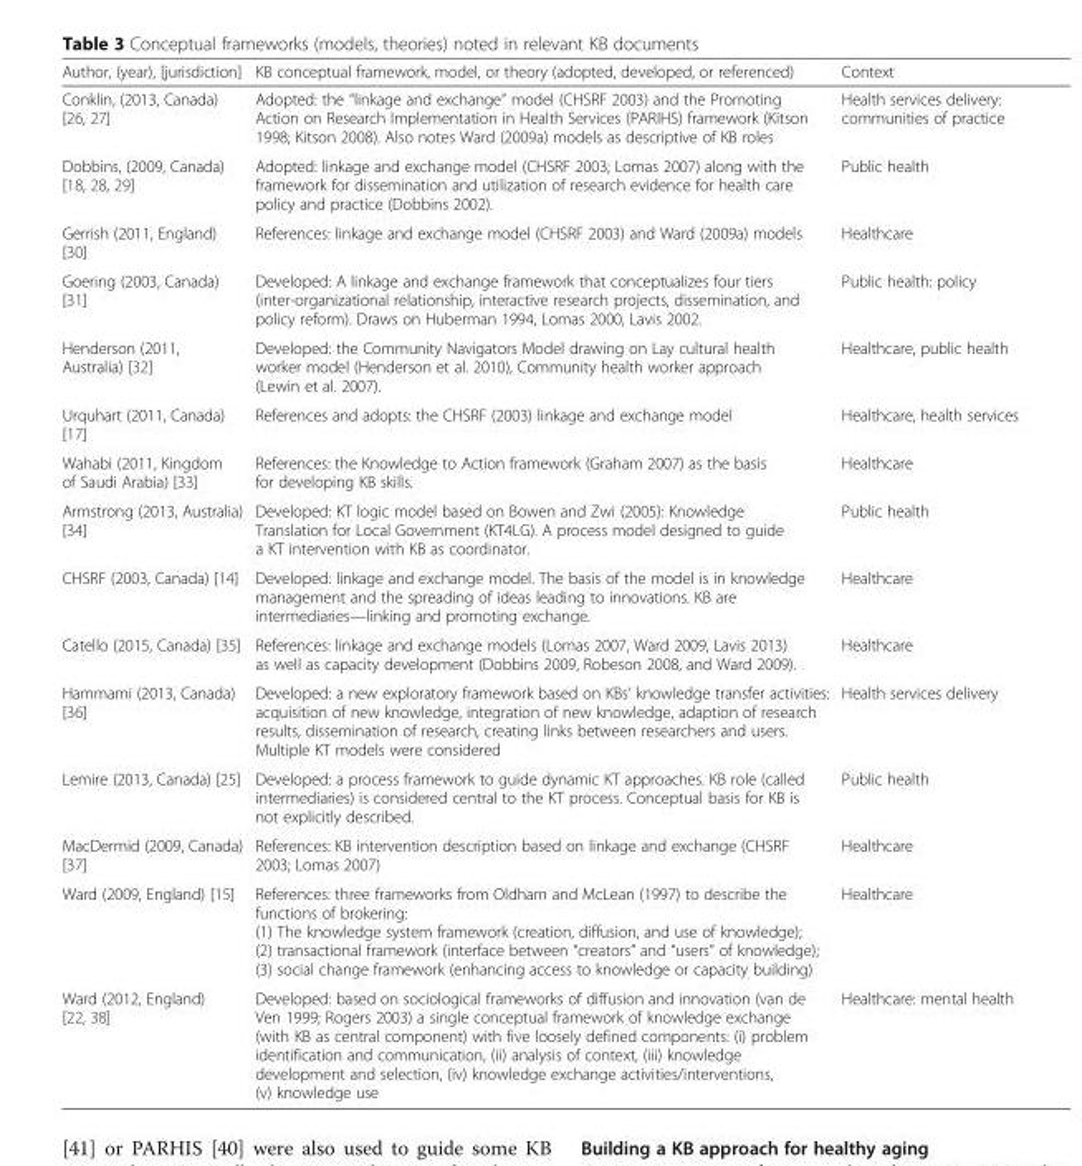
<table><thead><tr><td>Author, (year), [jurisdiction]</td><td>KB conceptual framework, model, or theory (adopted, developed, or referenced)</td><td>Context</td></tr></thead><tbody><tr><td>Conklin, (2013, Canada) [26, 27]</td><td>Adopted: the “linkage and exchange” model (CHSRF 2003) and the Promoting Action on Research Implementation in Health Services (PARIHS) framework (Kitson 1998; Kitson 2008). Also notes Ward (2009a) models as descriptive of KB roles</td><td>Health services delivery: communities of practice</td></tr><tr><td>Dobbins, (2009, Canada) [18, 28, 29]</td><td>Adopted: linkage and exchange model (CHSRF 2003; Lomas 2007) along with the framework for dissemination and utilization of research evidence for health care policy and practice (Dobbins 2002).</td><td>Public health</td></tr><tr><td>Gerrish (2011, England) [30]</td><td>References: linkage and exchange model (CHSRF 2003) and Ward (2009a) models</td><td>Healthcare</td></tr><tr><td>Goering (2003, Canada) [31]</td><td>Developed: A linkage and exchange framework that conceptualizes four tiers (inter-organizational relationship, interactive research projects, dissemination, and policy reform). Draws on Huberman 1994, Lomas 2000, Lavis 2002.</td><td>Public health: policy</td></tr><tr><td>Henderson (2011, Australia) [32]</td><td>Developed: the Community Navigators Model drawing on Lay cultural health worker model (Henderson et al. 2010), Community health worker approach (Lewin et al. 2007).</td><td>Healthcare, public health</td></tr><tr><td>Urquhart (2011, Canada) [17]</td><td>References and adopts: the CHSRF (2003) linkage and exchange model</td><td>Healthcare, health services</td></tr><tr><td>Wahabi (2011, Kingdom of Saudi Arabia) [33]</td><td>References: the Knowledge to Action framework (Graham 2007) as the basis for developing KB skills.</td><td>Healthcare</td></tr><tr><td>Armstrong (2013, Australia) [34]</td><td>Developed: KT logic model based on Bowen and Zwi (2005): Knowledge Translation for Local Government (KT4LG). A process model designed to guide a KT intervention with KB as coordinator.</td><td>Public health</td></tr><tr><td>CHSRF (2003, Canada) [14]</td><td>Developed: linkage and exchange model. The basis of the model is in knowledge management and the spreading of ideas leading to innovations. KB are intermediaries—linking and promoting exchange.</td><td>Healthcare</td></tr><tr><td>Catello (2015, Canada) [35]</td><td>References: linkage and exchange models (Lomas 2007, Ward 2009, Lavis 2013) as well as capacity development (Dobbins 2009, Robeson 2008, and Ward 2009).</td><td>Healthcare</td></tr><tr><td>Hammami (2013, Canada) [36]</td><td>Developed: a new exploratory framework based on KBs’ knowledge transfer activities: acquisition of new knowledge, integration of new knowledge, adaption of research results, dissemination of research, creating links between researchers and users. Multiple KT models were considered</td><td>Health services delivery</td></tr><tr><td>Lemire (2013, Canada) [25]</td><td>Developed: a process framework to guide dynamic KT approaches. KB role (called intermediaries) is considered central to the KT process. Conceptual basis for KB is not explicitly described.</td><td>Public health</td></tr><tr><td>MacDermid (2009, Canada) [37]</td><td>References: KB intervention description based on linkage and exchange (CHSRF 2003; Lomas 2007)</td><td>Healthcare</td></tr><tr><td>Ward (2009, England) [15]</td><td>References: three frameworks from Oldham and McLean (1997) to describe the functions of brokering: (1) The knowledge system framework (creation, diffusion, and use of knowledge); (2) transactional framework (interface between “creators” and “users” of knowledge); (3) social change framework (enhancing access to knowledge or capacity building)</td><td>Healthcare</td></tr><tr><td>Ward (2012, England) [22, 38]</td><td>Developed: based on sociological frameworks of diffusion and innovation (van de Ven 1999; Rogers 2003) a single conceptual framework of knowledge exchange (with KB as central component) with five loosely defined components: (i) problem identification and communication, (ii) analysis of context, (iii) knowledge development and selection, (iv) knowledge exchange activities/interventions, (v) knowledge use</td><td>Healthcare: mental health</td></tr></tbody></table>